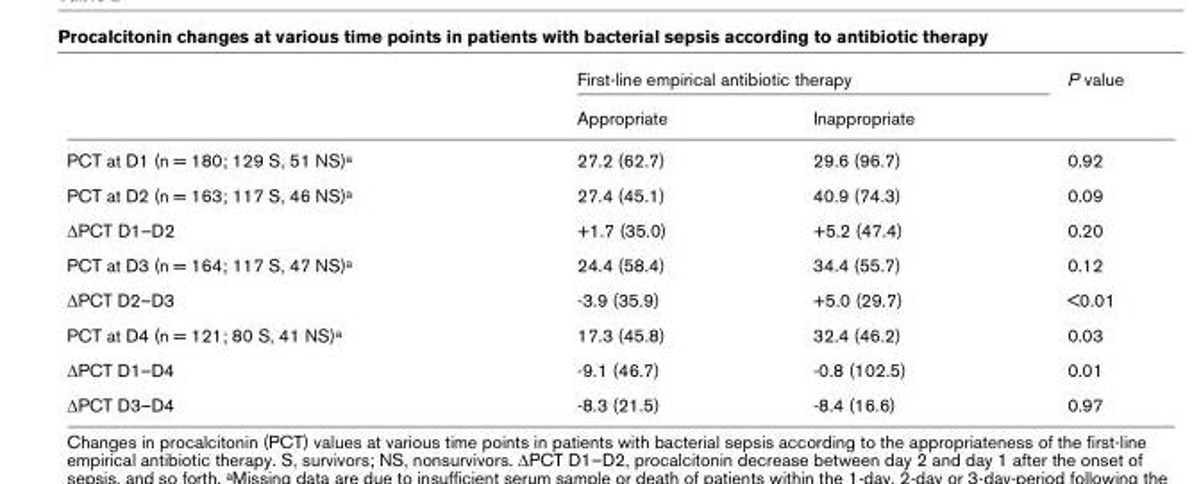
<table><thead><tr><td rowspan="2"></td><td colspan="2">First-line empirical antibiotic therapy</td><td rowspan="2">P value</td></tr><tr><td>Appropriate</td><td>Inappropriate</td></tr></thead><tbody><tr><td>PCT at D1 (n = 180; 129 S, 51 NS)<sup>a</sup></td><td>27.2 (62.7)</td><td>29.6 (96.7)</td><td>0.92</td></tr><tr><td>PCT at D2 (n = 163; 117 S, 46 NS)<sup>a</sup></td><td>27.4 (45.1)</td><td>40.9 (74.3)</td><td>0.09</td></tr><tr><td>ΔPCT D1–D2</td><td>+1.7 (35.0)</td><td>+5.2 (47.4)</td><td>0.20</td></tr><tr><td>PCT at D3 (n = 164; 117 S, 47 NS)<sup>a</sup></td><td>24.4 (58.4)</td><td>34.4 (55.7)</td><td>0.12</td></tr><tr><td>ΔPCT D2–D3</td><td>-3.9 (35.9)</td><td>+5.0 (29.7)</td><td>&lt;0.01</td></tr><tr><td>PCT at D4 (n = 121; 80 S, 41 NS)<sup>a</sup></td><td>17.3 (45.8)</td><td>32.4 (46.2)</td><td>0.03</td></tr><tr><td>ΔPCT D1–D4</td><td>-9.1 (46.7)</td><td>-0.8 (102.5)</td><td>0.01</td></tr><tr><td>ΔPCT D3–D4</td><td>-8.3 (21.5)</td><td>-8.4 (16.6)</td><td>0.97</td></tr></tbody></table>